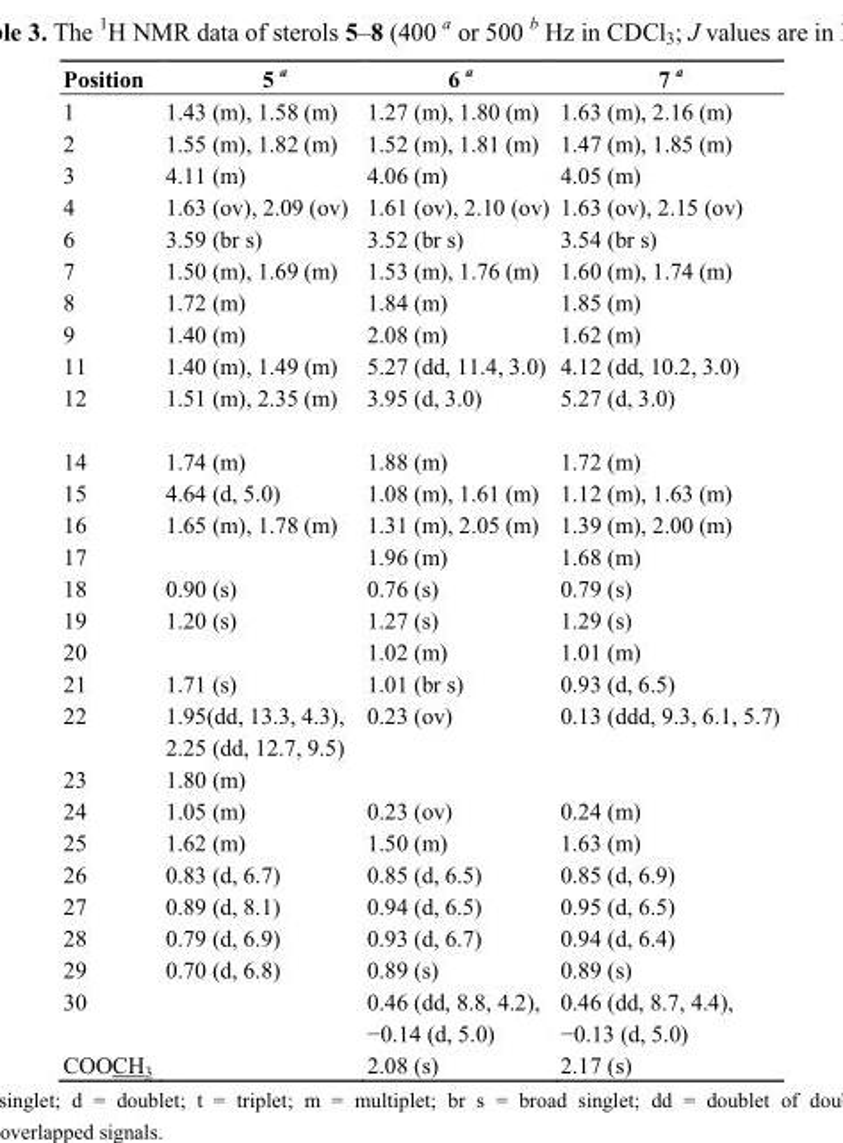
<table><thead><tr><td>Position</td><td>5 <sup>a</sup></td><td>6 <sup>a</sup></td><td>7 <sup>a</sup></td></tr></thead><tbody><tr><td>1</td><td>1.43 (m), 1.58 (m)</td><td>1.27 (m), 1.80 (m)</td><td>1.63 (m), 2.16 (m)</td></tr><tr><td>2</td><td>1.55 (m), 1.82 (m)</td><td>1.52 (m), 1.81 (m)</td><td>1.47 (m), 1.85 (m)</td></tr><tr><td>3</td><td>4.11 (m)</td><td>4.06 (m)</td><td>4.05 (m)</td></tr><tr><td>4</td><td>1.63 (ov), 2.09 (ov)</td><td>1.61 (ov), 2.10 (ov)</td><td>1.63 (ov), 2.15 (ov)</td></tr><tr><td>6</td><td>3.59 (br s)</td><td>3.52 (br s)</td><td>3.54 (br s)</td></tr><tr><td>7</td><td>1.50 (m), 1.69 (m)</td><td>1.53 (m), 1.76 (m)</td><td>1.60 (m), 1.74 (m)</td></tr><tr><td>8</td><td>1.72 (m)</td><td>1.84 (m)</td><td>1.85 (m)</td></tr><tr><td>9</td><td>1.40 (m)</td><td>2.08 (m)</td><td>1.62 (m)</td></tr><tr><td>11</td><td>1.40 (m), 1.49 (m)</td><td>5.27 (dd, 11.4, 3.0)</td><td>4.12 (dd, 10.2, 3.0)</td></tr><tr><td>12</td><td>1.51 (m), 2.35 (m)</td><td>3.95 (d, 3.0)</td><td>5.27 (d, 3.0)</td></tr><tr><td>14</td><td>1.74 (m)</td><td>1.88 (m)</td><td>1.72 (m)</td></tr><tr><td>15</td><td>4.64 (d, 5.0)</td><td>1.08 (m), 1.61 (m)</td><td>1.12 (m), 1.63 (m)</td></tr><tr><td>16</td><td>1.65 (m), 1.78 (m)</td><td>1.31 (m), 2.05 (m)</td><td>1.39 (m), 2.00 (m)</td></tr><tr><td>17</td><td></td><td>1.96 (m)</td><td>1.68 (m)</td></tr><tr><td>18</td><td>0.90 (s)</td><td>0.76 (s)</td><td>0.79 (s)</td></tr><tr><td>19</td><td>1.20 (s)</td><td>1.27 (s)</td><td>1.29 (s)</td></tr><tr><td>20</td><td></td><td>1.02 (m)</td><td>1.01 (m)</td></tr><tr><td>21</td><td>1.71 (s)</td><td>1.01 (br s)</td><td>0.93 (d, 6.5)</td></tr><tr><td rowspan="2">22</td><td>1.95(dd, 13.3, 4.3),</td><td>0.23 (ov)</td><td>0.13 (ddd, 9.3, 6.1, 5.7)</td></tr><tr><td>2.25 (dd, 12.7, 9.5)</td><td></td><td></td></tr><tr><td>23</td><td>1.80 (m)</td><td></td><td></td></tr><tr><td>24</td><td>1.05 (m)</td><td>0.23 (ov)</td><td>0.24 (m)</td></tr><tr><td>25</td><td>1.62 (m)</td><td>1.50 (m)</td><td>1.63 (m)</td></tr><tr><td>26</td><td>0.83 (d, 6.7)</td><td>0.85 (d, 6.5)</td><td>0.85 (d, 6.9)</td></tr><tr><td>27</td><td>0.89 (d, 8.1)</td><td>0.94 (d, 6.5)</td><td>0.95 (d, 6.5)</td></tr><tr><td>28</td><td>0.79 (d, 6.9)</td><td>0.93 (d, 6.7)</td><td>0.94 (d, 6.4)</td></tr><tr><td>29</td><td>0.70 (d, 6.8)</td><td>0.89 (s)</td><td>0.89 (s)</td></tr><tr><td rowspan="2">30</td><td></td><td>0.46 (dd, 8.8, 4.2),</td><td>0.46 (dd, 8.7, 4.4),</td></tr><tr><td></td><td>−0.14 (d, 5.0)</td><td>−0.13 (d, 5.0)</td></tr><tr><td>COOCH<sub>3</sub></td><td></td><td>2.08 (s)</td><td>2.17 (s)</td></tr></tbody></table>